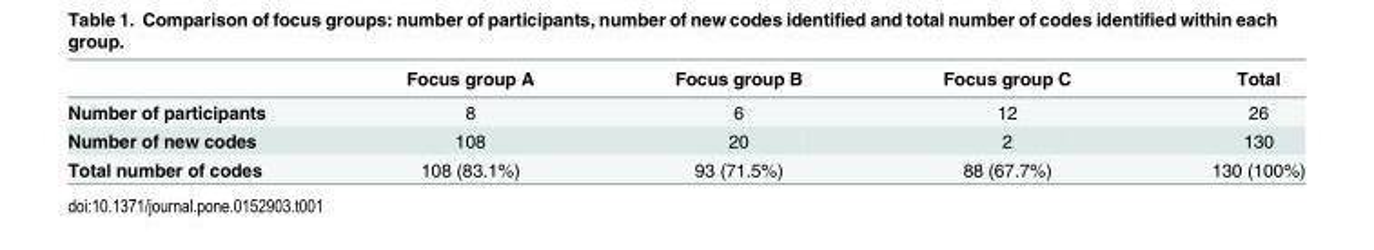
<table><thead><tr><td></td><td>Focus group A</td><td>Focus group B</td><td>Focus group C</td><td>Total</td></tr></thead><tbody><tr><td>Number of participants</td><td>8</td><td>6</td><td>12</td><td>26</td></tr><tr><td>Number of new codes</td><td>108</td><td>20</td><td>2</td><td>130</td></tr><tr><td>Total number of codes</td><td>108 (83.1%)</td><td>93 (71.5%)</td><td>88 (67.7%)</td><td>130 (100%)</td></tr></tbody></table>